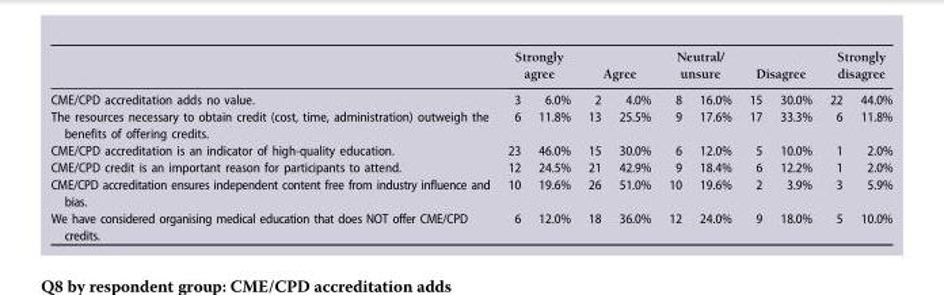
<table><thead><tr><td rowspan="2">CME/CPD accreditation adds no value.</td><td colspan="2">Strongly agree</td><td colspan="2">Agree</td><td colspan="2">Neutral/ unsure</td><td colspan="2">Disagree</td><td colspan="2">Strongly disagree</td></tr><tr><td>3</td><td>6.0%</td><td>2</td><td>4.0%</td><td>8</td><td>16.0%</td><td>15</td><td>30.0%</td><td>22</td><td>44.0%</td></tr></thead><tbody><tr><td>The resources necessary to obtain credit (cost, time, administration) outweigh the benefits of offering credits.</td><td>6</td><td>11.8%</td><td>13</td><td>25.5%</td><td>9</td><td>17.6%</td><td>17</td><td>33.3%</td><td>6</td><td>11.8%</td></tr><tr><td>CME/CPD accreditation is an indicator of high-quality education.</td><td>23</td><td>46.0%</td><td>15</td><td>30.0%</td><td>6</td><td>12.0%</td><td>5</td><td>10.0%</td><td>1</td><td>2.0%</td></tr><tr><td>CME/CPD credit is an important reason for participants to attend.</td><td>12</td><td>24.5%</td><td>21</td><td>42.9%</td><td>9</td><td>18.4%</td><td>6</td><td>12.2%</td><td>1</td><td>2.0%</td></tr><tr><td>CME/CPD accreditation ensures independent content free from industry influence and bias.</td><td>10</td><td>19.6%</td><td>26</td><td>51.0%</td><td>10</td><td>19.6%</td><td>2</td><td>3.9%</td><td>3</td><td>5.9%</td></tr><tr><td>We have considered organising medical education that does NOT offer CME/CPD credits.</td><td>6</td><td>12.0%</td><td>18</td><td>36.0%</td><td>12</td><td>24.0%</td><td>9</td><td>18.0%</td><td>5</td><td>10.0%</td></tr></tbody></table>